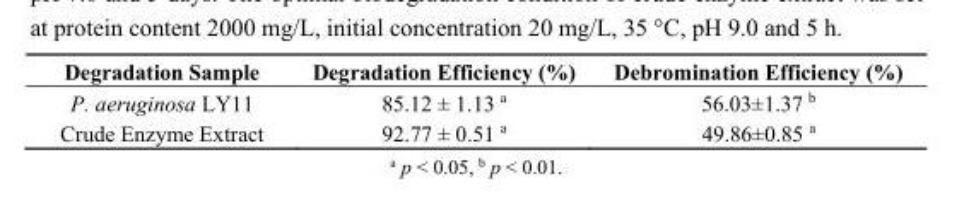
<table><thead><tr><td>Degradation Sample</td><td>Degradation Efficiency (%)</td><td>Debromination Efficiency (%)</td></tr></thead><tbody><tr><td>P. aeruginosa LY11</td><td>85.12 ± 1.13 <sup>a</sup></td><td>56.03±1.37 <sup>b</sup></td></tr><tr><td>Crude Enzyme Extract</td><td>92.77 ± 0.51 <sup>a</sup></td><td>49.86±0.85 <sup>a</sup></td></tr></tbody></table>